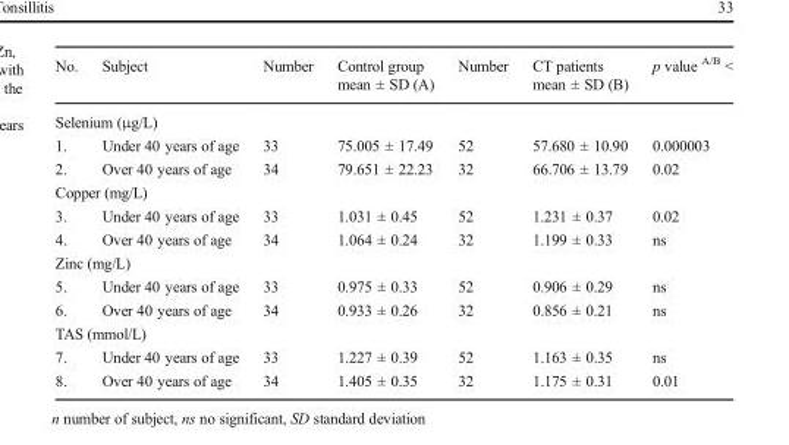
<table><thead><tr><td>No.</td><td>Subject</td><td>Number</td><td>Control group mean ± SD (A)</td><td>Number</td><td>CT patients mean ± SD (B)</td><td>p value <sup>A/B</sup> &lt;</td></tr></thead><tbody><tr><td colspan="7">Selenium (μg/L)</td></tr><tr><td>1.</td><td>Under 40 years of age</td><td>33</td><td>75.005 ± 17.49</td><td>52</td><td>57.680 ± 10.90</td><td>0.000003</td></tr><tr><td>2.</td><td>Over 40 years of age</td><td>34</td><td>79.651 ± 22.23</td><td>32</td><td>66.706 ± 13.79</td><td>0.02</td></tr><tr><td colspan="7">Copper (mg/L)</td></tr><tr><td>3.</td><td>Under 40 years of age</td><td>33</td><td>1.031 ± 0.45</td><td>52</td><td>1.231 ± 0.37</td><td>0.02</td></tr><tr><td>4.</td><td>Over 40 years of age</td><td>34</td><td>1.064 ± 0.24</td><td>32</td><td>1.199 ± 0.33</td><td>ns</td></tr><tr><td colspan="7">Zinc (mg/L)</td></tr><tr><td>5.</td><td>Under 40 years of age</td><td>33</td><td>0.975 ± 0.33</td><td>52</td><td>0.906 ± 0.29</td><td>ns</td></tr><tr><td>6.</td><td>Over 40 years of age</td><td>34</td><td>0.933 ± 0.26</td><td>32</td><td>0.856 ± 0.21</td><td>ns</td></tr><tr><td colspan="7">TAS (mmol/L)</td></tr><tr><td>7.</td><td>Under 40 years of age</td><td>33</td><td>1.227 ± 0.39</td><td>52</td><td>1.163 ± 0.35</td><td>ns</td></tr><tr><td>8.</td><td>Over 40 years of age</td><td>34</td><td>1.405 ± 0.35</td><td>32</td><td>1.175 ± 0.31</td><td>0.01</td></tr></tbody></table>